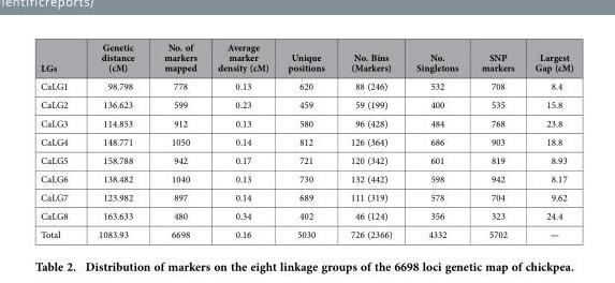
<table><thead><tr><td>LGs</td><td>Genetic distance (cM)</td><td>No. of markers mapped</td><td>Average marker density (cM)</td><td>Unique positions</td><td>No. Bins (Markers)</td><td>No. Singletons</td><td>SNP markers</td><td>Largest Gap (cM)</td></tr></thead><tbody><tr><td>CaLG1</td><td>98.798</td><td>778</td><td>0.13</td><td>620</td><td>88 (246)</td><td>532</td><td>708</td><td>8.4</td></tr><tr><td>CaLG2</td><td>136.623</td><td>599</td><td>0.23</td><td>459</td><td>59 (199)</td><td>400</td><td>535</td><td>15.8</td></tr><tr><td>CaLG3</td><td>114.853</td><td>912</td><td>0.13</td><td>580</td><td>96 (428)</td><td>484</td><td>768</td><td>23.8</td></tr><tr><td>CaLG4</td><td>148.771</td><td>1050</td><td>0.14</td><td>812</td><td>126 (364)</td><td>686</td><td>903</td><td>18.8</td></tr><tr><td>CaLG5</td><td>158.788</td><td>942</td><td>0.17</td><td>721</td><td>120 (342)</td><td>601</td><td>819</td><td>8.93</td></tr><tr><td>CaLG6</td><td>138.482</td><td>1040</td><td>0.13</td><td>730</td><td>132 (442)</td><td>598</td><td>942</td><td>8.17</td></tr><tr><td>CaLG7</td><td>123.982</td><td>897</td><td>0.14</td><td>689</td><td>111 (319)</td><td>578</td><td>704</td><td>9.62</td></tr><tr><td>CaLG8</td><td>163.633</td><td>480</td><td>0.34</td><td>402</td><td>46 (124)</td><td>356</td><td>323</td><td>24.4</td></tr><tr><td>Total</td><td>1083.93</td><td>6698</td><td>0.16</td><td>5030</td><td>726 (2366)</td><td>4332</td><td>5702</td><td>—</td></tr></tbody></table>